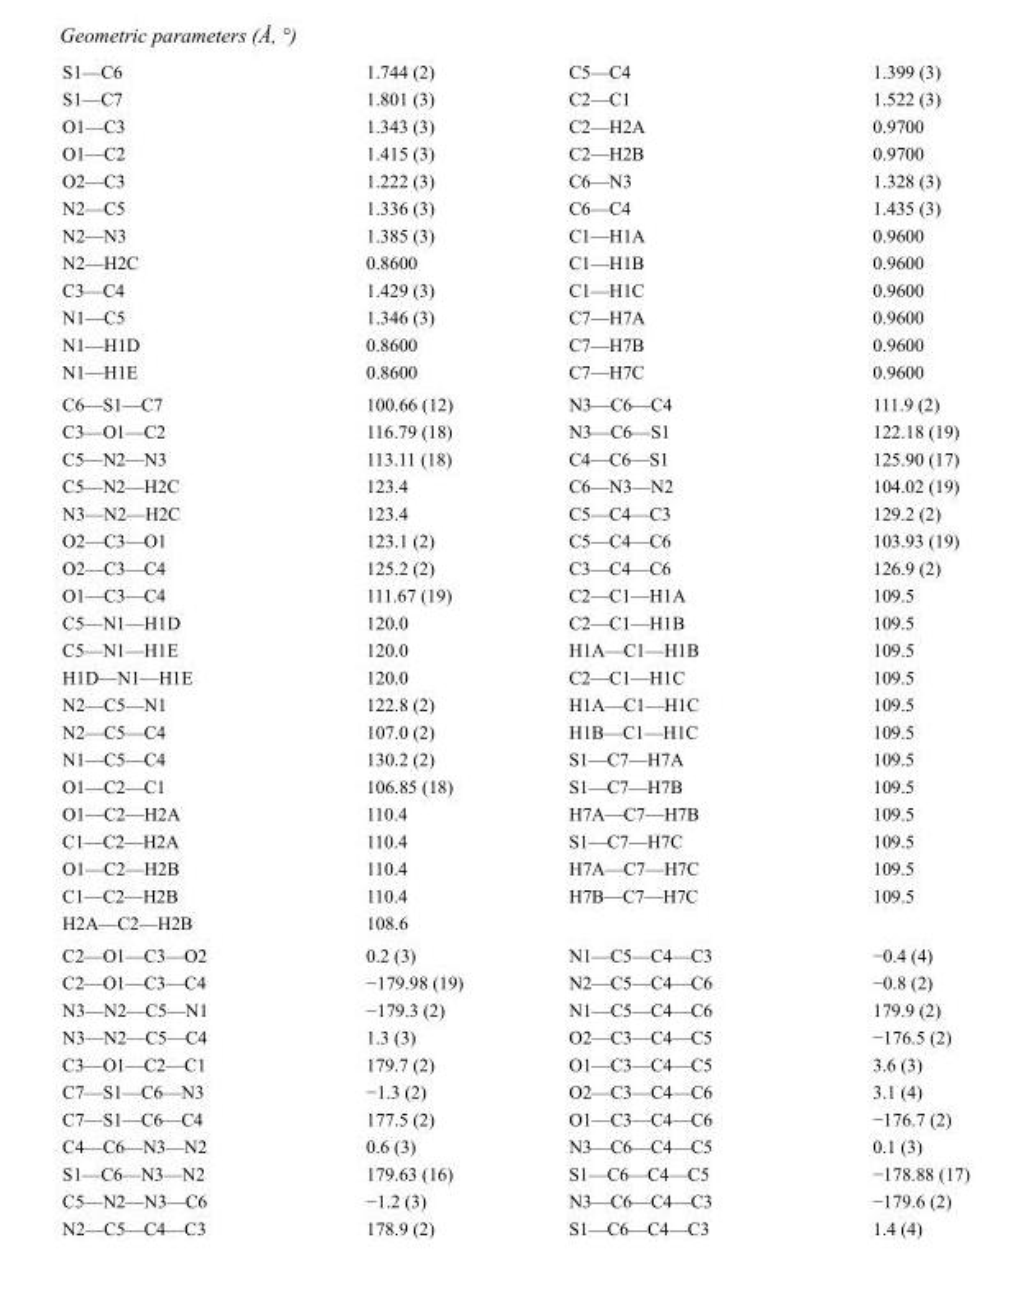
<table><tbody><tr><td>S1—C6</td><td>1.744 (2)</td><td>C5—C4</td><td>1.399 (3)</td></tr><tr><td>S1—C7</td><td>1.801 (3)</td><td>C2—C1</td><td>1.522 (3)</td></tr><tr><td>O1—C3</td><td>1.343 (3)</td><td>C2—H2A</td><td>0.9700</td></tr><tr><td>O1—C2</td><td>1.415 (3)</td><td>C2—H2B</td><td>0.9700</td></tr><tr><td>O2—C3</td><td>1.222 (3)</td><td>C6—N3</td><td>1.328 (3)</td></tr><tr><td>N2—C5</td><td>1.336 (3)</td><td>C6—C4</td><td>1.435 (3)</td></tr><tr><td>N2—N3</td><td>1.385 (3)</td><td>C1—H1A</td><td>0.9600</td></tr><tr><td>N2—H2C</td><td>0.8600</td><td>C1—H1B</td><td>0.9600</td></tr><tr><td>C3—C4</td><td>1.429 (3)</td><td>C1—H1C</td><td>0.9600</td></tr><tr><td>N1—C5</td><td>1.346 (3)</td><td>C7—H7A</td><td>0.9600</td></tr><tr><td>N1—H1D</td><td>0.8600</td><td>C7—H7B</td><td>0.9600</td></tr><tr><td>N1—H1E</td><td>0.8600</td><td>C7—H7C</td><td>0.9600</td></tr><tr><td>C6—S1—C7</td><td>100.66 (12)</td><td>N3—C6—C4</td><td>111.9 (2)</td></tr><tr><td>C3—O1—C2</td><td>116.79 (18)</td><td>N3—C6—S1</td><td>122.18 (19)</td></tr><tr><td>C5—N2—N3</td><td>113.11 (18)</td><td>C4—C6—S1</td><td>125.90 (17)</td></tr><tr><td>C5—N2—H2C</td><td>123.4</td><td>C6—N3—N2</td><td>104.02 (19)</td></tr><tr><td>N3—N2—H2C</td><td>123.4</td><td>C5—C4—C3</td><td>129.2 (2)</td></tr><tr><td>O2—C3—O1</td><td>123.1 (2)</td><td>C5—C4—C6</td><td>103.93 (19)</td></tr><tr><td>O2—C3—C4</td><td>125.2 (2)</td><td>C3—C4—C6</td><td>126.9 (2)</td></tr><tr><td>O1—C3—C4</td><td>111.67 (19)</td><td>C2—C1—H1A</td><td>109.5</td></tr><tr><td>C5—N1—H1D</td><td>120.0</td><td>C2—C1—H1B</td><td>109.5</td></tr><tr><td>C5—N1—H1E</td><td>120.0</td><td>H1A—C1—H1B</td><td>109.5</td></tr><tr><td>H1D—N1—H1E</td><td>120.0</td><td>C2—C1—H1C</td><td>109.5</td></tr><tr><td>N2—C5—N1</td><td>122.8 (2)</td><td>H1A—C1—H1C</td><td>109.5</td></tr><tr><td>N2—C5—C4</td><td>107.0 (2)</td><td>H1B—C1—H1C</td><td>109.5</td></tr><tr><td>N1—C5—C4</td><td>130.2 (2)</td><td>S1—C7—H7A</td><td>109.5</td></tr><tr><td>O1—C2—C1</td><td>106.85 (18)</td><td>S1—C7—H7B</td><td>109.5</td></tr><tr><td>O1—C2—H2A</td><td>110.4</td><td>H7A—C7—H7B</td><td>109.5</td></tr><tr><td>C1—C2—H2A</td><td>110.4</td><td>S1—C7—H7C</td><td>109.5</td></tr><tr><td>O1—C2—H2B</td><td>110.4</td><td>H7A—C7—H7C</td><td>109.5</td></tr><tr><td>C1—C2—H2B</td><td>110.4</td><td>H7B—C7—H7C</td><td>109.5</td></tr><tr><td>H2A—C2—H2B</td><td>108.6</td><td></td><td></td></tr><tr><td>C2—O1—C3—O2</td><td>0.2 (3)</td><td>N1—C5—C4—C3</td><td>−0.4 (4)</td></tr><tr><td>C2—O1—C3—C4</td><td>−179.98 (19)</td><td>N2—C5—C4—C6</td><td>−0.8 (2)</td></tr><tr><td>N3—N2—C5—N1</td><td>−179.3 (2)</td><td>N1—C5—C4—C6</td><td>179.9 (2)</td></tr><tr><td>N3—N2—C5—C4</td><td>1.3 (3)</td><td>O2—C3—C4—C5</td><td>−176.5 (2)</td></tr><tr><td>C3—O1—C2—C1</td><td>179.7 (2)</td><td>O1—C3—C4—C5</td><td>3.6 (3)</td></tr><tr><td>C7—S1—C6—N3</td><td>−1.3 (2)</td><td>O2—C3—C4—C6</td><td>3.1 (4)</td></tr><tr><td>C7—S1—C6—C4</td><td>177.5 (2)</td><td>O1—C3—C4—C6</td><td>−176.7 (2)</td></tr><tr><td>C4—C6—N3—N2</td><td>0.6 (3)</td><td>N3—C6—C4—C5</td><td>0.1 (3)</td></tr><tr><td>S1—C6—N3—N2</td><td>179.63 (16)</td><td>S1—C6—C4—C5</td><td>−178.88 (17)</td></tr><tr><td>C5—N2—N3—C6</td><td>−1.2 (3)</td><td>N3—C6—C4—C3</td><td>−179.6 (2)</td></tr><tr><td>N2—C5—C4—C3</td><td>178.9 (2)</td><td>S1—C6—C4—C3</td><td>1.4 (4)</td></tr></tbody></table>